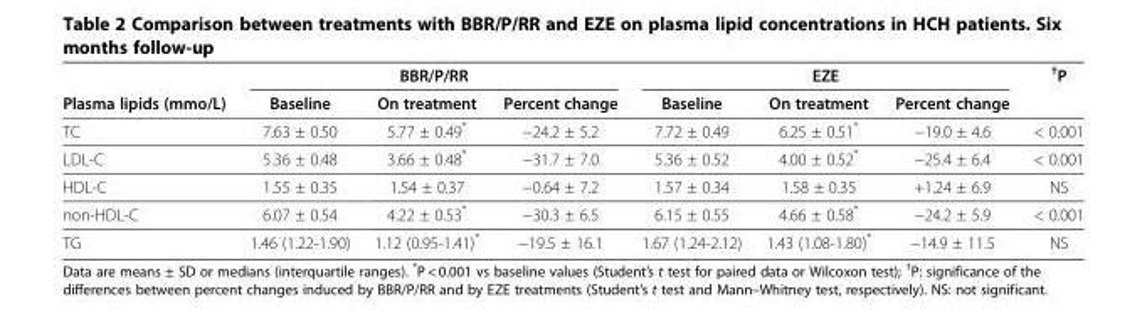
<table><thead><tr><td rowspan="2">Plasma lipids (mmo/L)</td><td colspan="3">BBR/P/RR</td><td colspan="3">EZE</td><td rowspan="2"><sup>†</sup>P</td></tr><tr><td>Baseline</td><td>On treatment</td><td>Percent change</td><td>Baseline</td><td>On treatment</td><td>Percent change</td></tr></thead><tbody><tr><td>TC</td><td>7.63 ± 0.50</td><td>5.77 ± 0.49*</td><td>−24.2 ± 5.2</td><td>7.72 ± 0.49</td><td>6.25 ± 0.51*</td><td>−19.0 ± 4.6</td><td>&lt; 0.001</td></tr><tr><td>LDL-C</td><td>5.36 ± 0.48</td><td>3.66 ± 0.48*</td><td>−31.7 ± 7.0</td><td>5.36 ± 0.52</td><td>4.00 ± 0.52*</td><td>−25.4 ± 6.4</td><td>&lt; 0.001</td></tr><tr><td>HDL-C</td><td>1.55 ± 0.35</td><td>1.54 ± 0.37</td><td>−0.64 ± 7.2</td><td>1.57 ± 0.34</td><td>1.58 ± 0.35</td><td>+1.24 ± 6.9</td><td>NS</td></tr><tr><td>non-HDL-C</td><td>6.07 ± 0.54</td><td>4.22 ± 0.53*</td><td>−30.3 ± 6.5</td><td>6.15 ± 0.55</td><td>4.66 ± 0.58*</td><td>−24.2 ± 5.9</td><td>&lt; 0.001</td></tr><tr><td>TG</td><td>1.46 (1.22-1.90)</td><td>1.12 (0.95-1.41)*</td><td>−19.5 ± 16.1</td><td>1.67 (1.24-2.12)</td><td>1.43 (1.08-1.80)*</td><td>−14.9 ± 11.5</td><td>NS</td></tr></tbody></table>